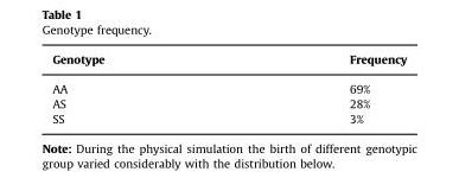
<table><thead><tr><td>Genotype</td><td>Frequency</td></tr></thead><tbody><tr><td>AA</td><td>69%</td></tr><tr><td>AS</td><td>28%</td></tr><tr><td>SS</td><td>3%</td></tr></tbody></table>